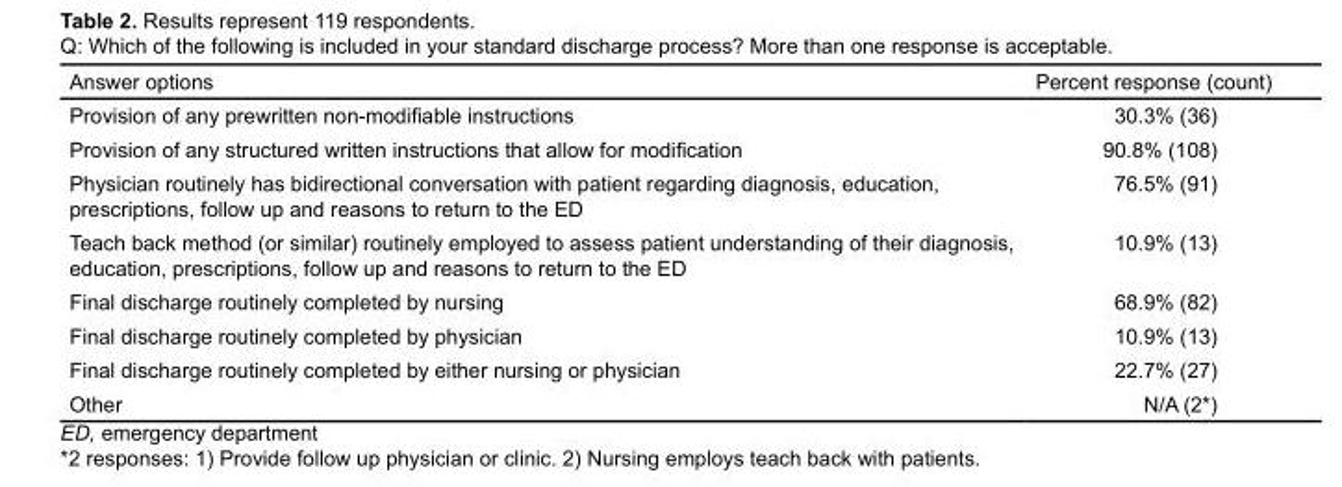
<table><thead><tr><td>Answer options</td><td>Percent response (count)</td></tr></thead><tbody><tr><td>Provision of any prewritten non-modifiable instructions</td><td>30.3% (36)</td></tr><tr><td>Provision of any structured written instructions that allow for modification</td><td>90.8% (108)</td></tr><tr><td>Physician routinely has bidirectional conversation with patient regarding diagnosis, education, prescriptions, follow up and reasons to return to the ED</td><td>76.5% (91)</td></tr><tr><td>Teach back method (or similar) routinely employed to assess patient understanding of their diagnosis, education, prescriptions, follow up and reasons to return to the ED</td><td>10.9% (13)</td></tr><tr><td>Final discharge routinely completed by nursing</td><td>68.9% (82)</td></tr><tr><td>Final discharge routinely completed by physician</td><td>10.9% (13)</td></tr><tr><td>Final discharge routinely completed by either nursing or physician</td><td>22.7% (27)</td></tr><tr><td>Other</td><td>N/A (2*)</td></tr></tbody></table>